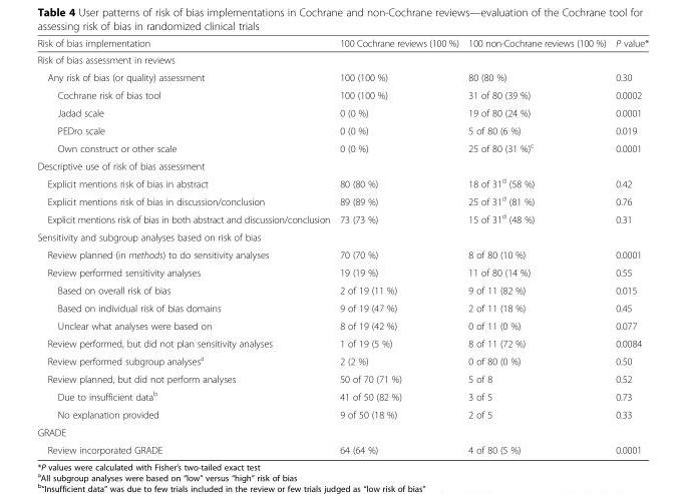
<table><thead><tr><td>Risk of bias implementation</td><td>100 Cochrane reviews (100 %)</td><td>100 non-Cochrane reviews (100 %)</td><td>P value*</td></tr></thead><tbody><tr><td colspan="4">Risk of bias assessment in reviews</td></tr><tr><td>Any risk of bias (or quality) assessment</td><td>100 (100 %)</td><td>80 (80 %)</td><td>0.30</td></tr><tr><td>Cochrane risk of bias tool</td><td>100 (100 %)</td><td>31 of 80 (39 %)</td><td>0.0002</td></tr><tr><td>Jadad scale</td><td>0 (0 %)</td><td>19 of 80 (24 %)</td><td>0.0001</td></tr><tr><td>PEDro scale</td><td>0 (0 %)</td><td>5 of 80 (6 %)</td><td>0.019</td></tr><tr><td>Own construct or other scale</td><td>0 (0 %)</td><td>25 of 80 (31 %)<sup>c</sup></td><td>0.0001</td></tr><tr><td colspan="4">Descriptive use of risk of bias assessment</td></tr><tr><td>Explicit mentions risk of bias in abstract</td><td>80 (80 %)</td><td>18 of 31<sup>d</sup> (58 %)</td><td>0.42</td></tr><tr><td>Explicit mentions risk of bias in discussion/conclusion</td><td>89 (89 %)</td><td>25 of 31<sup>d</sup> (81 %)</td><td>0.76</td></tr><tr><td>Explicit mentions risk of bias in both abstract and discussion/conclusion</td><td>73 (73 %)</td><td>15 of 31<sup>d</sup> (48 %)</td><td>0.31</td></tr><tr><td colspan="4">Sensitivity and subgroup analyses based on risk of bias</td></tr><tr><td>Review planned (in methods) to do sensitivity analyses</td><td>70 (70 %)</td><td>8 of 80 (10 %)</td><td>0.0001</td></tr><tr><td>Review performed sensitivity analyses</td><td>19 (19 %)</td><td>11 of 80 (14 %)</td><td>0.55</td></tr><tr><td>Based on overall risk of bias</td><td>2 of 19 (11 %)</td><td>9 of 11 (82 %)</td><td>0.015</td></tr><tr><td>Based on individual risk of bias domains</td><td>9 of 19 (47 %)</td><td>2 of 11 (18 %)</td><td>0.45</td></tr><tr><td>Unclear what analyses were based on</td><td>8 of 19 (42 %)</td><td>0 of 11 (0 %)</td><td>0.077</td></tr><tr><td>Review performed, but did not plan sensitivity analyses</td><td>1 of 19 (5 %)</td><td>8 of 11 (72 %)</td><td>0.0084</td></tr><tr><td>Review performed subgroup analyses<sup>a</sup></td><td>2 (2 %)</td><td>0 of 80 (0 %)</td><td>0.50</td></tr><tr><td>Review planned, but did not perform analyses</td><td>50 of 70 (71 %)</td><td>5 of 8</td><td>0.52</td></tr><tr><td>Due to insufficient data<sup>b</sup></td><td>41 of 50 (82 %)</td><td>3 of 5</td><td>0.73</td></tr><tr><td>No explanation provided</td><td>9 of 50 (18 %)</td><td>2 of 5</td><td>0.33</td></tr><tr><td colspan="4">GRADE</td></tr><tr><td>Review incorporated GRADE</td><td>64 (64 %)</td><td>4 of 80 (5 %)</td><td>0.0001</td></tr></tbody></table>